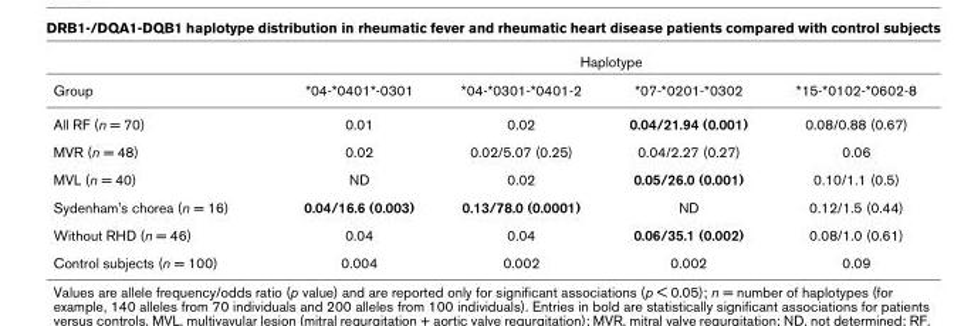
<table><thead><tr><td rowspan="2">Group</td><td colspan="4">Haplotype</td></tr><tr><td>*04-*0401*-0301</td><td>*04-*0301-*0401-2</td><td>*07-*0201-*0302</td><td>*15-*0102-*0602-8</td></tr></thead><tbody><tr><td>All RF (n = 70)</td><td>0.01</td><td>0.02</td><td>0.04/21.94 (0.001)</td><td>0.08/0.88 (0.67)</td></tr><tr><td>MVR (n = 48)</td><td>0.02</td><td>0.02/5.07 (0.25)</td><td>0.04/2.27 (0.27)</td><td>0.06</td></tr><tr><td>MVL (n = 40)</td><td>ND</td><td>0.02</td><td>0.05/26.0 (0.001)</td><td>0.10/1.1 (0.5)</td></tr><tr><td>Sydenham&#x27;s chorea (n = 16)</td><td>0.04/16.6 (0.003)</td><td>0.13/78.0 (0.0001)</td><td>ND</td><td>0.12/1.5 (0.44)</td></tr><tr><td>Without RHD (n = 46)</td><td>0.04</td><td>0.04</td><td>0.06/35.1 (0.002)</td><td>0.08/1.0 (0.61)</td></tr><tr><td>Control subjects (n = 100)</td><td>0.004</td><td>0.002</td><td>0.002</td><td>0.09</td></tr></tbody></table>